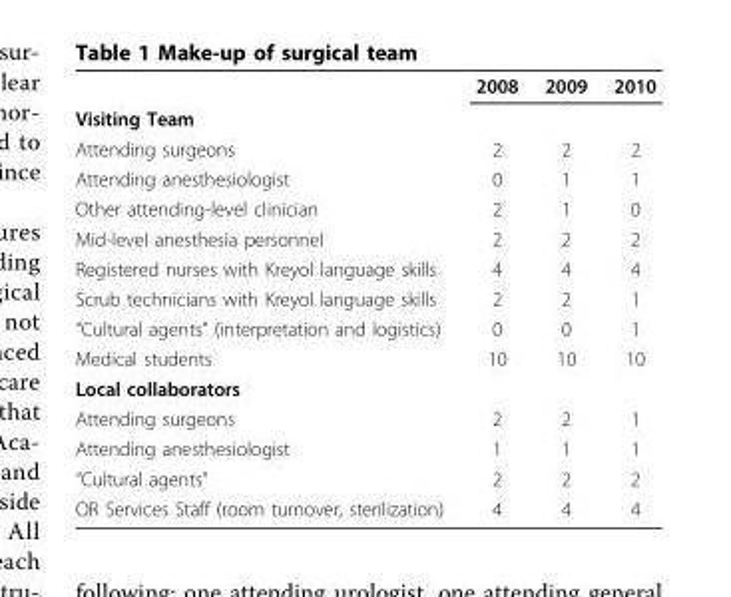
<table><thead><tr><td></td><td>2008</td><td>2009</td><td>2010</td></tr></thead><tbody><tr><td colspan="4">Visiting Team</td></tr><tr><td>Attending surgeons</td><td>2</td><td>2</td><td>2</td></tr><tr><td>Attending anesthesiologist</td><td>0</td><td>1</td><td>1</td></tr><tr><td>Other attending-level clinician</td><td>2</td><td>1</td><td>0</td></tr><tr><td>Mid-level anesthesia personnel</td><td>2</td><td>2</td><td>2</td></tr><tr><td>Registered nurses with Kreyol language skills</td><td>4</td><td>4</td><td>4</td></tr><tr><td>Scrub technicians with Kreyol language skills</td><td>2</td><td>2</td><td>1</td></tr><tr><td>“Cultural agents” (interpretation and logistics)</td><td>0</td><td>0</td><td>1</td></tr><tr><td>Medical students</td><td>10</td><td>10</td><td>10</td></tr><tr><td colspan="4">Local collaborators</td></tr><tr><td>Attending surgeons</td><td>2</td><td>2</td><td>1</td></tr><tr><td>Attending anesthesiologist</td><td>1</td><td>1</td><td>1</td></tr><tr><td>“Cultural agents”</td><td>2</td><td>2</td><td>2</td></tr><tr><td>OR Services Staff (room turnover, sterilization)</td><td>4</td><td>4</td><td>4</td></tr></tbody></table>